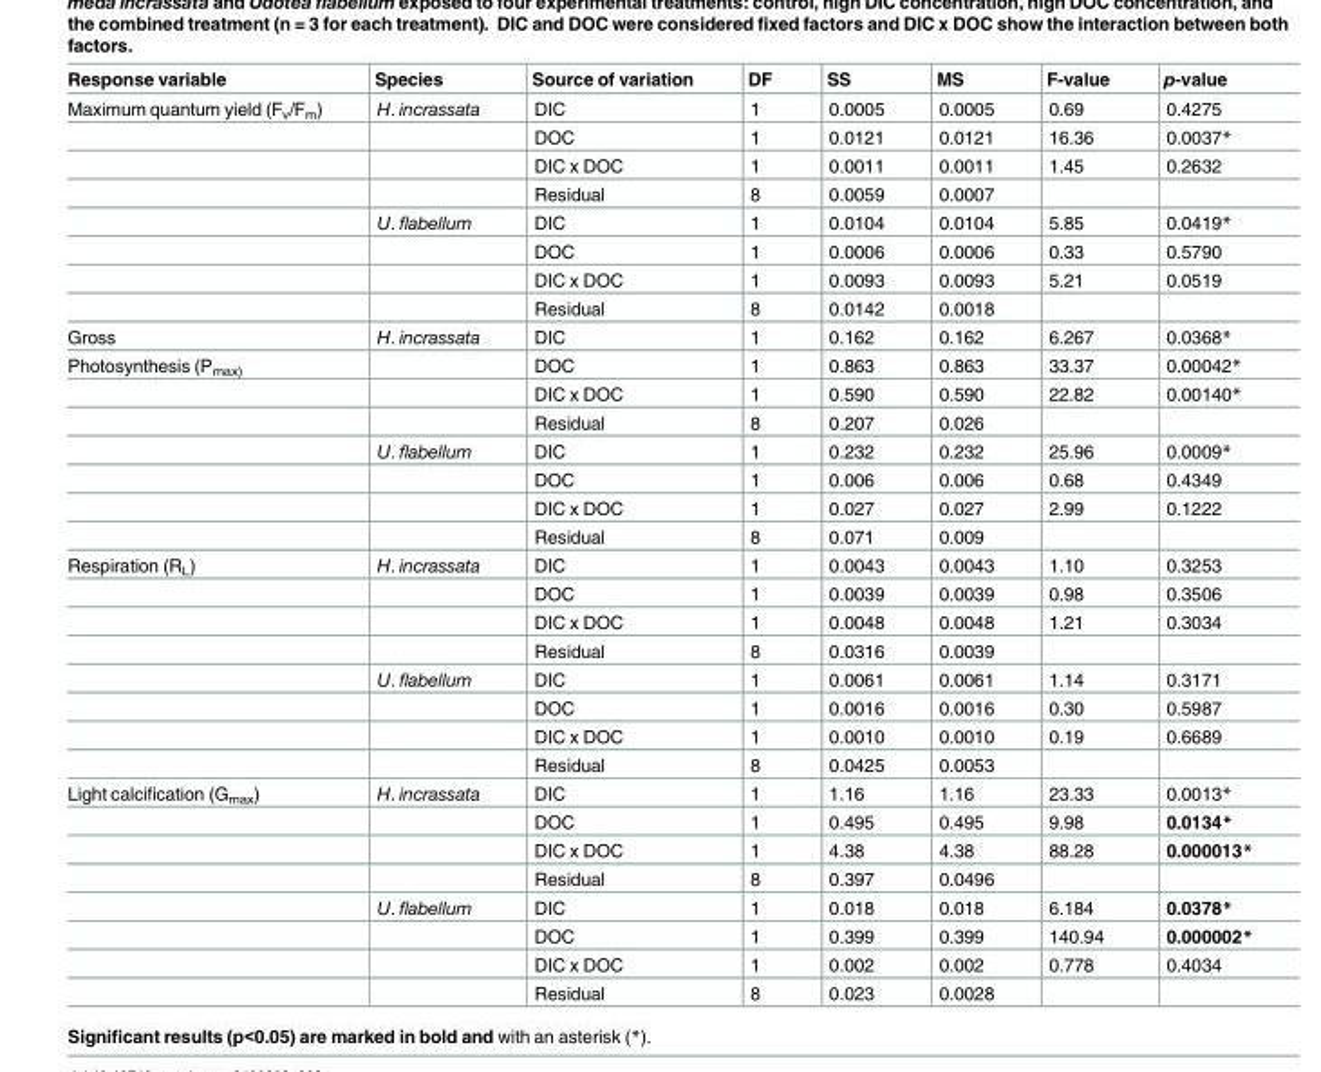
<table><thead><tr><td>Response variable</td><td>Species</td><td>Source of variation</td><td>DF</td><td>SS</td><td>MS</td><td>F-value</td><td>p-value</td></tr></thead><tbody><tr><td rowspan="8">Maximum quantum yield (F<sub>v</sub>/F<sub>m</sub>)</td><td>H. incrassata</td><td>DIC</td><td>1</td><td>0.0005</td><td>0.0005</td><td>0.69</td><td>0.4275</td></tr><tr><td></td><td>DOC</td><td>1</td><td>0.0121</td><td>0.0121</td><td>16.36</td><td>0.0037*</td></tr><tr><td></td><td>DIC x DOC</td><td>1</td><td>0.0011</td><td>0.0011</td><td>1.45</td><td>0.2632</td></tr><tr><td></td><td>Residual</td><td>8</td><td>0.0059</td><td>0.0007</td><td></td><td></td></tr><tr><td>U. flabellum</td><td>DIC</td><td>1</td><td>0.0104</td><td>0.0104</td><td>5.85</td><td>0.0419*</td></tr><tr><td></td><td>DOC</td><td>1</td><td>0.0006</td><td>0.0006</td><td>0.33</td><td>0.5790</td></tr><tr><td></td><td>DIC x DOC</td><td>1</td><td>0.0093</td><td>0.0093</td><td>5.21</td><td>0.0519</td></tr><tr><td></td><td>Residual</td><td>8</td><td>0.0142</td><td>0.0018</td><td></td><td></td></tr><tr><td>Gross</td><td>H. incrassata</td><td>DIC</td><td>1</td><td>0.162</td><td>0.162</td><td>6.267</td><td>0.0368*</td></tr><tr><td rowspan="7">Photosynthesis (P<sub>max)</sub></td><td></td><td>DOC</td><td>1</td><td>0.863</td><td>0.863</td><td>33.37</td><td>0.00042*</td></tr><tr><td></td><td>DIC x DOC</td><td>1</td><td>0.590</td><td>0.590</td><td>22.82</td><td>0.00140*</td></tr><tr><td></td><td>Residual</td><td>8</td><td>0.207</td><td>0.026</td><td></td><td></td></tr><tr><td>U. flabellum</td><td>DIC</td><td>1</td><td>0.232</td><td>0.232</td><td>25.96</td><td>0.0009*</td></tr><tr><td></td><td>DOC</td><td>1</td><td>0.006</td><td>0.006</td><td>0.68</td><td>0.4349</td></tr><tr><td></td><td>DIC x DOC</td><td>1</td><td>0.027</td><td>0.027</td><td>2.99</td><td>0.1222</td></tr><tr><td></td><td>Residual</td><td>8</td><td>0.071</td><td>0.009</td><td></td><td></td></tr><tr><td rowspan="8">Respiration (R<sub>L</sub>)</td><td>H. incrassata</td><td>DIC</td><td>1</td><td>0.0043</td><td>0.0043</td><td>1.10</td><td>0.3253</td></tr><tr><td></td><td>DOC</td><td>1</td><td>0.0039</td><td>0.0039</td><td>0.98</td><td>0.3506</td></tr><tr><td></td><td>DIC x DOC</td><td>1</td><td>0.0048</td><td>0.0048</td><td>1.21</td><td>0.3034</td></tr><tr><td></td><td>Residual</td><td>8</td><td>0.0316</td><td>0.0039</td><td></td><td></td></tr><tr><td>U. flabellum</td><td>DIC</td><td>1</td><td>0.0061</td><td>0.0061</td><td>1.14</td><td>0.3171</td></tr><tr><td></td><td>DOC</td><td>1</td><td>0.0016</td><td>0.0016</td><td>0.30</td><td>0.5987</td></tr><tr><td></td><td>DIC x DOC</td><td>1</td><td>0.0010</td><td>0.0010</td><td>0.19</td><td>0.6689</td></tr><tr><td></td><td>Residual</td><td>8</td><td>0.0425</td><td>0.0053</td><td></td><td></td></tr><tr><td rowspan="8">Light calcification (G<sub>max</sub>)</td><td>H. incrassata</td><td>DIC</td><td>1</td><td>1.16</td><td>1.16</td><td>23.33</td><td>0.0013*</td></tr><tr><td></td><td>DOC</td><td>1</td><td>0.495</td><td>0.495</td><td>9.98</td><td>0.0134*</td></tr><tr><td></td><td>DIC x DOC</td><td>1</td><td>4.38</td><td>4.38</td><td>88.28</td><td>0.000013*</td></tr><tr><td></td><td>Residual</td><td>8</td><td>0.397</td><td>0.0496</td><td></td><td></td></tr><tr><td>U. flabellum</td><td>DIC</td><td>1</td><td>0.018</td><td>0.018</td><td>6.184</td><td>0.0378*</td></tr><tr><td></td><td>DOC</td><td>1</td><td>0.399</td><td>0.399</td><td>140.94</td><td>0.000002*</td></tr><tr><td></td><td>DIC x DOC</td><td>1</td><td>0.002</td><td>0.002</td><td>0.778</td><td>0.4034</td></tr><tr><td></td><td>Residual</td><td>8</td><td>0.023</td><td>0.0028</td><td></td><td></td></tr></tbody></table>